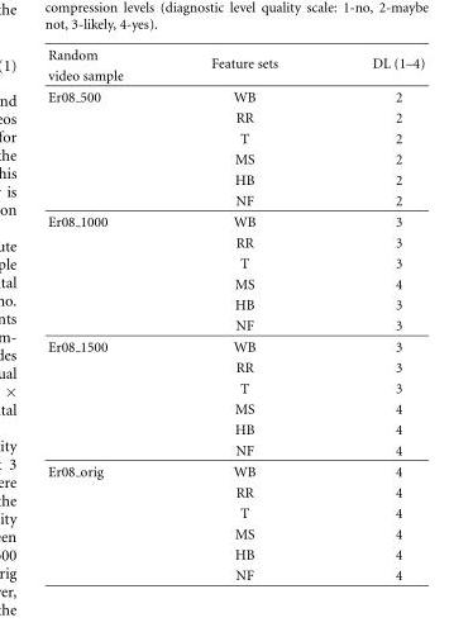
<table><thead><tr><td rowspan="2">Random video sample</td><td rowspan="2">Feature sets</td><td rowspan="2">DL (1–4)</td></tr><tr></tr></thead><tbody><tr><td rowspan="6">Er08 500</td><td>WB</td><td>2</td></tr><tr><td>RR</td><td>2</td></tr><tr><td>T</td><td>2</td></tr><tr><td>MS</td><td>2</td></tr><tr><td>HB</td><td>2</td></tr><tr><td>NF</td><td>2</td></tr><tr><td rowspan="6">Er08 1000</td><td>WB</td><td>3</td></tr><tr><td>RR</td><td>3</td></tr><tr><td>T</td><td>3</td></tr><tr><td>MS</td><td>4</td></tr><tr><td>HB</td><td>3</td></tr><tr><td>NF</td><td>3</td></tr><tr><td rowspan="6">Er08 1500</td><td>WB</td><td>3</td></tr><tr><td>RR</td><td>3</td></tr><tr><td>T</td><td>3</td></tr><tr><td>MS</td><td>4</td></tr><tr><td>HB</td><td>4</td></tr><tr><td>NF</td><td>4</td></tr><tr><td rowspan="6">Er08 orig</td><td>WB</td><td>4</td></tr><tr><td>RR</td><td>4</td></tr><tr><td>T</td><td>4</td></tr><tr><td>MS</td><td>4</td></tr><tr><td>HB</td><td>4</td></tr><tr><td>NF</td><td>4</td></tr></tbody></table>